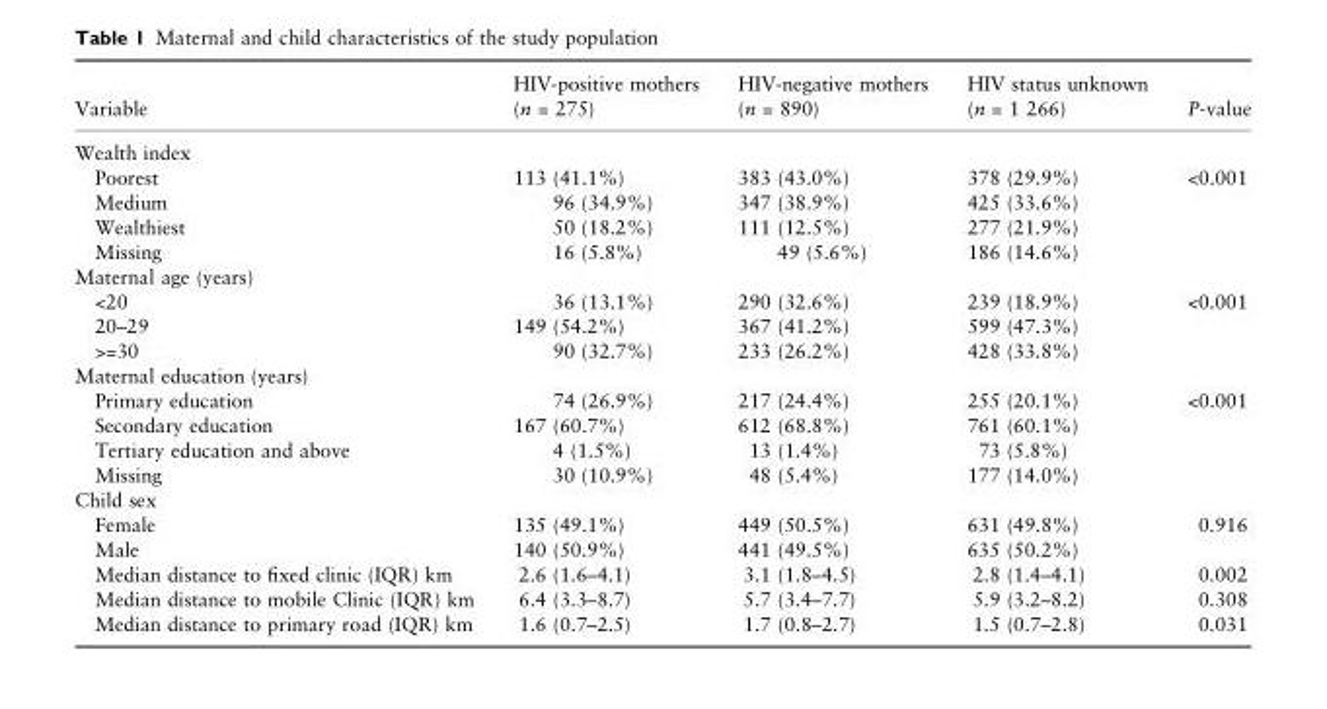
<table><thead><tr><td>Variable</td><td>HIV-positive mothers (n = 275)</td><td>HIV-negative mothers (n = 890)</td><td>HIV status unknown (n = 1 266)</td><td>P-value</td></tr></thead><tbody><tr><td colspan="5">Wealth index</td></tr><tr><td>Poorest</td><td>113 (41.1%)</td><td>383 (43.0%)</td><td>378 (29.9%)</td><td>&lt;0.001</td></tr><tr><td>Medium</td><td>96 (34.9%)</td><td>347 (38.9%)</td><td>425 (33.6%)</td><td></td></tr><tr><td>Wealthiest</td><td>50 (18.2%)</td><td>111 (12.5%)</td><td>277 (21.9%)</td><td></td></tr><tr><td>Missing</td><td>16 (5.8%)</td><td>49 (5.6%)</td><td>186 (14.6%)</td><td></td></tr><tr><td colspan="5">Maternal age (years)</td></tr><tr><td>&lt;20</td><td>36 (13.1%)</td><td>290 (32.6%)</td><td>239 (18.9%)</td><td>&lt;0.001</td></tr><tr><td>20–29</td><td>149 (54.2%)</td><td>367 (41.2%)</td><td>599 (47.3%)</td><td></td></tr><tr><td>&gt;=30</td><td>90 (32.7%)</td><td>233 (26.2%)</td><td>428 (33.8%)</td><td></td></tr><tr><td colspan="5">Maternal education (years)</td></tr><tr><td>Primary education</td><td>74 (26.9%)</td><td>217 (24.4%)</td><td>255 (20.1%)</td><td>&lt;0.001</td></tr><tr><td>Secondary education</td><td>167 (60.7%)</td><td>612 (68.8%)</td><td>761 (60.1%)</td><td></td></tr><tr><td>Tertiary education and above</td><td>4 (1.5%)</td><td>13 (1.4%)</td><td>73 (5.8%)</td><td></td></tr><tr><td>Missing</td><td>30 (10.9%)</td><td>48 (5.4%)</td><td>177 (14.0%)</td><td></td></tr><tr><td colspan="5">Child sex</td></tr><tr><td>Female</td><td>135 (49.1%)</td><td>449 (50.5%)</td><td>631 (49.8%)</td><td>0.916</td></tr><tr><td>Male</td><td>140 (50.9%)</td><td>441 (49.5%)</td><td>635 (50.2%)</td><td></td></tr><tr><td>Median distance to fixed clinic (IQR) km</td><td>2.6 (1.6–4.1)</td><td>3.1 (1.8–4.5)</td><td>2.8 (1.4–4.1)</td><td>0.002</td></tr><tr><td>Median distance to mobile Clinic (IQR) km</td><td>6.4 (3.3–8.7)</td><td>5.7 (3.4–7.7)</td><td>5.9 (3.2–8.2)</td><td>0.308</td></tr><tr><td>Median distance to primary road (IQR) km</td><td>1.6 (0.7–2.5)</td><td>1.7 (0.8–2.7)</td><td>1.5 (0.7–2.8)</td><td>0.031</td></tr></tbody></table>